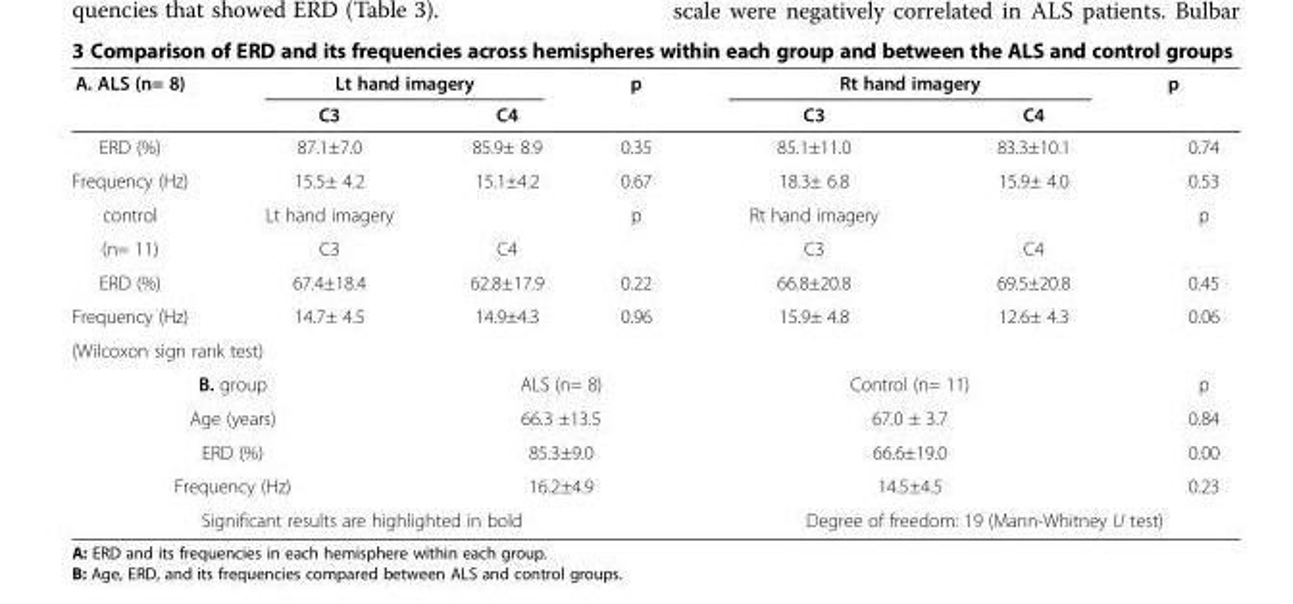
<table><thead><tr><td rowspan="2">A. ALS (n= 8)</td><td colspan="2">Lt hand imagery</td><td rowspan="2">p</td><td colspan="2">Rt hand imagery</td><td rowspan="2">p</td></tr><tr><td>C3</td><td>C4</td><td>C3</td><td>C4</td></tr></thead><tbody><tr><td>ERD (%)</td><td>87.1±7.0</td><td>85.9± 8.9</td><td>0.35</td><td>85.1±11.0</td><td>83.3±10.1</td><td>0.74</td></tr><tr><td>Frequency (Hz)</td><td>15.5± 4.2</td><td>15.1±4.2</td><td>0.67</td><td>18.3± 6.8</td><td>15.9± 4.0</td><td>0.53</td></tr><tr><td>control</td><td>Lt hand imagery</td><td></td><td>p</td><td>Rt hand imagery</td><td></td><td>p</td></tr><tr><td>(n= 11)</td><td>C3</td><td>C4</td><td></td><td>C3</td><td>C4</td><td></td></tr><tr><td>ERD (%)</td><td>67.4±18.4</td><td>62.8±17.9</td><td>0.22</td><td>66.8±20.8</td><td>69.5±20.8</td><td>0.45</td></tr><tr><td>Frequency (Hz)</td><td>14.7± 4.5</td><td>14.9±4.3</td><td>0.96</td><td>15.9± 4.8</td><td>12.6± 4.3</td><td>0.06</td></tr><tr><td colspan="7">(Wilcoxon sign rank test)</td></tr><tr><td colspan="2">B. group</td><td colspan="2">ALS (n= 8)</td><td colspan="2">Control (n= 11)</td><td>p</td></tr><tr><td colspan="2">Age (years)</td><td colspan="2">66.3 ±13.5</td><td colspan="2">67.0 ± 3.7</td><td>0.84</td></tr><tr><td colspan="2">ERD (%)</td><td colspan="2">85.3±9.0</td><td colspan="2">66.6±19.0</td><td>0.00</td></tr><tr><td colspan="2">Frequency (Hz)</td><td colspan="2">16.2±4.9</td><td colspan="2">14.5±4.5</td><td>0.23</td></tr><tr><td colspan="4">Significant results are highlighted in bold</td><td colspan="3">Degree of freedom: 19 (Mann-Whitney U test)</td></tr></tbody></table>